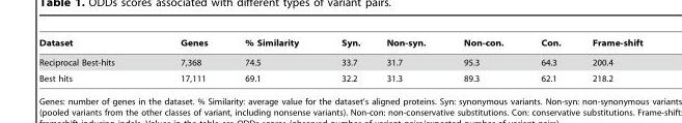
<table><thead><tr><td>Dataset</td><td>Genes</td><td>% Similarity</td><td>Syn.</td><td>Non-syn.</td><td>Non-con.</td><td>Con.</td><td>Frame-shift</td></tr></thead><tbody><tr><td>Reciprocal Best-hits</td><td>7,368</td><td>74.5</td><td>33.7</td><td>31.7</td><td>95.3</td><td>64.3</td><td>200.4</td></tr><tr><td>Best hits</td><td>17,111</td><td>69.1</td><td>32.2</td><td>31.3</td><td>89.3</td><td>62.1</td><td>218.2</td></tr></tbody></table>